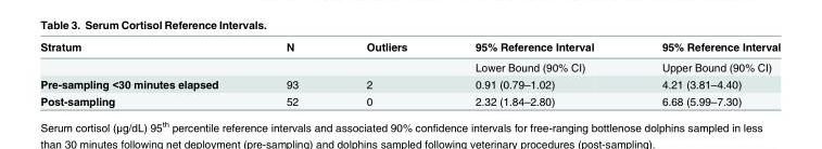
<table><thead><tr><td>Stratum</td><td>N</td><td>Outliers</td><td>95% Reference Interval</td><td>95% Reference Interval</td></tr></thead><tbody><tr><td></td><td></td><td></td><td>Lower Bound (90% CI)</td><td>Upper Bound (90% CI)</td></tr><tr><td>Pre-sampling &lt;30 minutes elapsed</td><td>93</td><td>2</td><td>0.91 (0.79–1.02)</td><td>4.21 (3.81–4.40)</td></tr><tr><td>Post-sampling</td><td>52</td><td>0</td><td>2.32 (1.84–2.80)</td><td>6.68 (5.99–7.30)</td></tr></tbody></table>